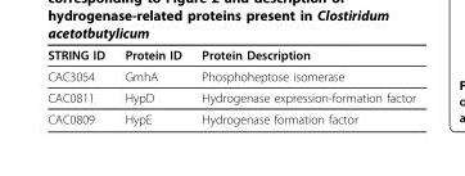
<table><thead><tr><td>STRING ID</td><td>Protein ID</td><td>Protein Description</td></tr></thead><tbody><tr><td>CAC3054</td><td>GmhA</td><td>Phosphoheptose isomerase</td></tr><tr><td>CAC0811</td><td>HypD</td><td>Hydrogenase expression-formation factor</td></tr><tr><td>CAC0809</td><td>HypE</td><td>Hydrogenase formation factor</td></tr></tbody></table>